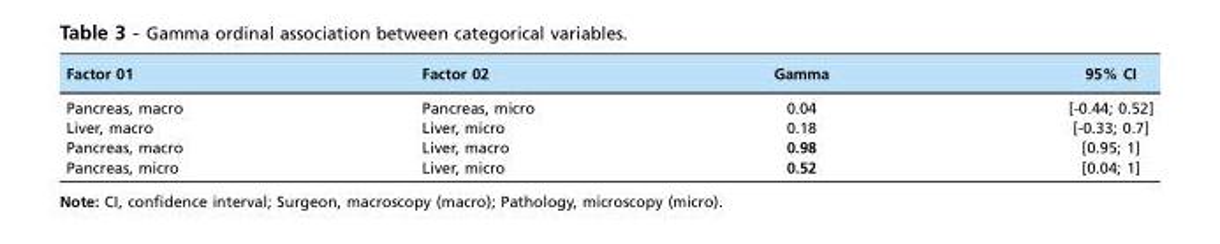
<table><thead><tr><td>Factor 01</td><td>Factor 02</td><td>Gamma</td><td>95% CI</td></tr></thead><tbody><tr><td>Pancreas, macro</td><td>Pancreas, micro</td><td>0.04</td><td>[-0.44; 0.52]</td></tr><tr><td>Liver, macro</td><td>Liver, micro</td><td>0.18</td><td>[-0.33; 0.7]</td></tr><tr><td>Pancreas, macro</td><td>Liver, macro</td><td>0.98</td><td>[0.95; 1]</td></tr><tr><td>Pancreas, micro</td><td>Liver, micro</td><td>0.52</td><td>[0.04; 1]</td></tr></tbody></table>